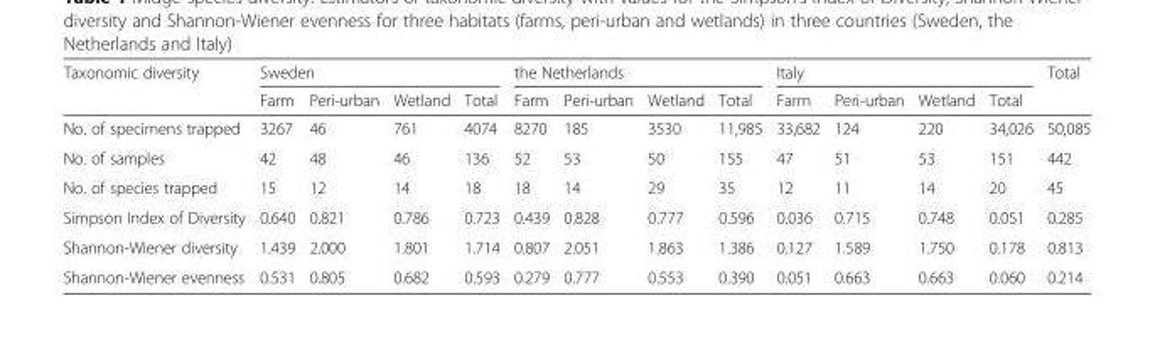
<table><thead><tr><td rowspan="2">Taxonomic diversity</td><td colspan="4">Sweden</td><td colspan="4">the Netherlands</td><td colspan="4">Italy</td><td rowspan="2">Total</td></tr><tr><td>Farm</td><td>Peri-urban</td><td>Wetland</td><td>Total</td><td>Farm</td><td>Peri-urban</td><td>Wetland</td><td>Total</td><td>Farm</td><td>Peri-urban</td><td>Wetland</td><td>Total</td></tr></thead><tbody><tr><td>No. of specimens trapped</td><td>3267</td><td>46</td><td>761</td><td>4074</td><td>8270</td><td>185</td><td>3530</td><td>11,985</td><td>33,682</td><td>124</td><td>220</td><td>34,026</td><td>50,085</td></tr><tr><td>No. of samples</td><td>42</td><td>48</td><td>46</td><td>136</td><td>52</td><td>53</td><td>50</td><td>155</td><td>47</td><td>51</td><td>53</td><td>151</td><td>442</td></tr><tr><td>No. of species trapped</td><td>15</td><td>12</td><td>14</td><td>18</td><td>18</td><td>14</td><td>29</td><td>35</td><td>12</td><td>11</td><td>14</td><td>20</td><td>45</td></tr><tr><td>Simpson Index of Diversity</td><td>0.640</td><td>0.821</td><td>0.786</td><td>0.723</td><td>0.439</td><td>0.828</td><td>0.777</td><td>0.596</td><td>0.036</td><td>0.715</td><td>0.748</td><td>0.051</td><td>0.285</td></tr><tr><td>Shannon-Wiener diversity</td><td>1.439</td><td>2.000</td><td>1.801</td><td>1.714</td><td>0.807</td><td>2.051</td><td>1.863</td><td>1.386</td><td>0.127</td><td>1.589</td><td>1.750</td><td>0.178</td><td>0.813</td></tr><tr><td>Shannon-Wiener evenness</td><td>0.531</td><td>0.805</td><td>0.682</td><td>0.593</td><td>0.279</td><td>0.777</td><td>0.553</td><td>0.390</td><td>0.051</td><td>0.663</td><td>0.663</td><td>0.060</td><td>0.214</td></tr></tbody></table>